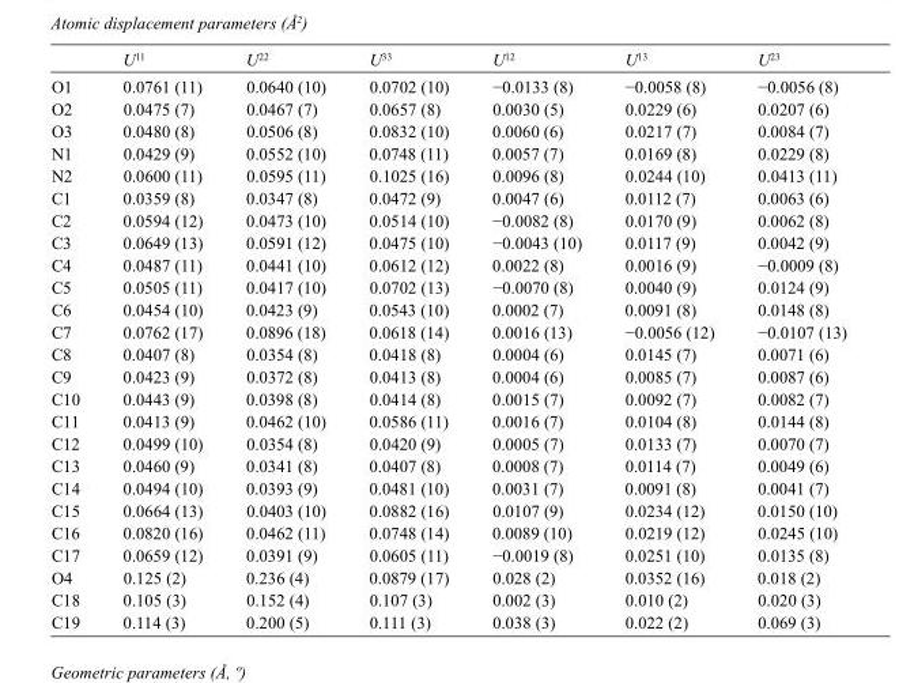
<table><thead><tr><td></td><td>U<sup>11</sup></td><td>U<sup>22</sup></td><td>U<sup>33</sup></td><td>U<sup>12</sup></td><td>U<sup>13</sup></td><td>U<sup>23</sup></td></tr></thead><tbody><tr><td>O1</td><td>0.0761 (11)</td><td>0.0640 (10)</td><td>0.0702 (10)</td><td>−0.0133 (8)</td><td>−0.0058 (8)</td><td>−0.0056 (8)</td></tr><tr><td>O2</td><td>0.0475 (7)</td><td>0.0467 (7)</td><td>0.0657 (8)</td><td>0.0030 (5)</td><td>0.0229 (6)</td><td>0.0207 (6)</td></tr><tr><td>O3</td><td>0.0480 (8)</td><td>0.0506 (8)</td><td>0.0832 (10)</td><td>0.0060 (6)</td><td>0.0217 (7)</td><td>0.0084 (7)</td></tr><tr><td>N1</td><td>0.0429 (9)</td><td>0.0552 (10)</td><td>0.0748 (11)</td><td>0.0057 (7)</td><td>0.0169 (8)</td><td>0.0229 (8)</td></tr><tr><td>N2</td><td>0.0600 (11)</td><td>0.0595 (11)</td><td>0.1025 (16)</td><td>0.0096 (8)</td><td>0.0244 (10)</td><td>0.0413 (11)</td></tr><tr><td>C1</td><td>0.0359 (8)</td><td>0.0347 (8)</td><td>0.0472 (9)</td><td>0.0047 (6)</td><td>0.0112 (7)</td><td>0.0063 (6)</td></tr><tr><td>C2</td><td>0.0594 (12)</td><td>0.0473 (10)</td><td>0.0514 (10)</td><td>−0.0082 (8)</td><td>0.0170 (9)</td><td>0.0062 (8)</td></tr><tr><td>C3</td><td>0.0649 (13)</td><td>0.0591 (12)</td><td>0.0475 (10)</td><td>−0.0043 (10)</td><td>0.0117 (9)</td><td>0.0042 (9)</td></tr><tr><td>C4</td><td>0.0487 (11)</td><td>0.0441 (10)</td><td>0.0612 (12)</td><td>0.0022 (8)</td><td>0.0016 (9)</td><td>−0.0009 (8)</td></tr><tr><td>C5</td><td>0.0505 (11)</td><td>0.0417 (10)</td><td>0.0702 (13)</td><td>−0.0070 (8)</td><td>0.0040 (9)</td><td>0.0124 (9)</td></tr><tr><td>C6</td><td>0.0454 (10)</td><td>0.0423 (9)</td><td>0.0543 (10)</td><td>0.0002 (7)</td><td>0.0091 (8)</td><td>0.0148 (8)</td></tr><tr><td>C7</td><td>0.0762 (17)</td><td>0.0896 (18)</td><td>0.0618 (14)</td><td>0.0016 (13)</td><td>−0.0056 (12)</td><td>−0.0107 (13)</td></tr><tr><td>C8</td><td>0.0407 (8)</td><td>0.0354 (8)</td><td>0.0418 (8)</td><td>0.0004 (6)</td><td>0.0145 (7)</td><td>0.0071 (6)</td></tr><tr><td>C9</td><td>0.0423 (9)</td><td>0.0372 (8)</td><td>0.0413 (8)</td><td>0.0004 (6)</td><td>0.0085 (7)</td><td>0.0087 (6)</td></tr><tr><td>C10</td><td>0.0443 (9)</td><td>0.0398 (8)</td><td>0.0414 (8)</td><td>0.0015 (7)</td><td>0.0092 (7)</td><td>0.0082 (7)</td></tr><tr><td>C11</td><td>0.0413 (9)</td><td>0.0462 (10)</td><td>0.0586 (11)</td><td>0.0016 (7)</td><td>0.0104 (8)</td><td>0.0144 (8)</td></tr><tr><td>C12</td><td>0.0499 (10)</td><td>0.0354 (8)</td><td>0.0420 (9)</td><td>0.0005 (7)</td><td>0.0133 (7)</td><td>0.0070 (7)</td></tr><tr><td>C13</td><td>0.0460 (9)</td><td>0.0341 (8)</td><td>0.0407 (8)</td><td>0.0008 (7)</td><td>0.0114 (7)</td><td>0.0049 (6)</td></tr><tr><td>C14</td><td>0.0494 (10)</td><td>0.0393 (9)</td><td>0.0481 (10)</td><td>0.0031 (7)</td><td>0.0091 (8)</td><td>0.0041 (7)</td></tr><tr><td>C15</td><td>0.0664 (13)</td><td>0.0403 (10)</td><td>0.0882 (16)</td><td>0.0107 (9)</td><td>0.0234 (12)</td><td>0.0150 (10)</td></tr><tr><td>C16</td><td>0.0820 (16)</td><td>0.0462 (11)</td><td>0.0748 (14)</td><td>0.0089 (10)</td><td>0.0219 (12)</td><td>0.0245 (10)</td></tr><tr><td>C17</td><td>0.0659 (12)</td><td>0.0391 (9)</td><td>0.0605 (11)</td><td>−0.0019 (8)</td><td>0.0251 (10)</td><td>0.0135 (8)</td></tr><tr><td>O4</td><td>0.125 (2)</td><td>0.236 (4)</td><td>0.0879 (17)</td><td>0.028 (2)</td><td>0.0352 (16)</td><td>0.018 (2)</td></tr><tr><td>C18</td><td>0.105 (3)</td><td>0.152 (4)</td><td>0.107 (3)</td><td>0.002 (3)</td><td>0.010 (2)</td><td>0.020 (3)</td></tr><tr><td>C19</td><td>0.114 (3)</td><td>0.200 (5)</td><td>0.111 (3)</td><td>0.038 (3)</td><td>0.022 (2)</td><td>0.069 (3)</td></tr></tbody></table>